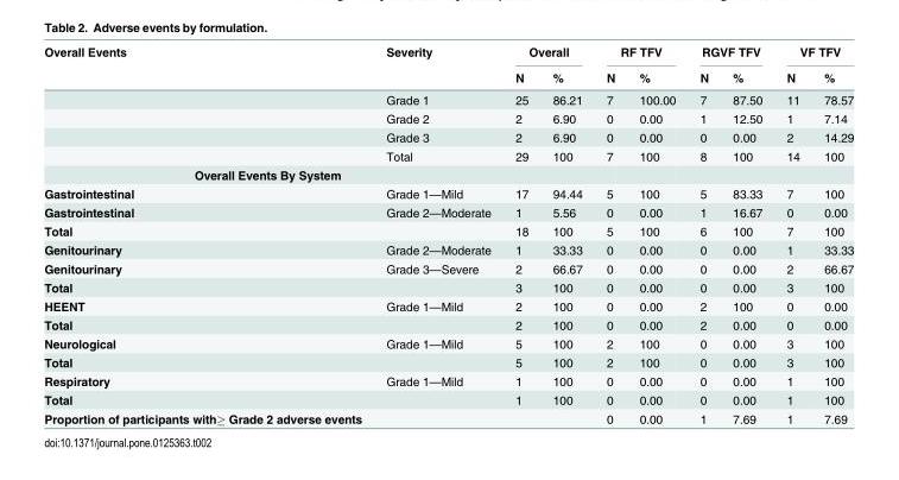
<table><thead><tr><td rowspan="2">Overall Events</td><td rowspan="2">Severity</td><td colspan="2">Overall</td><td colspan="2">RF TFV</td><td colspan="2">RGVF TFV</td><td colspan="2">VF TFV</td></tr><tr><td>N</td><td>%</td><td>N</td><td>%</td><td>N</td><td>%</td><td>N</td><td>%</td></tr></thead><tbody><tr><td></td><td>Grade 1</td><td>25</td><td>86.21</td><td>7</td><td>100.00</td><td>7</td><td>87.50</td><td>11</td><td>78.57</td></tr><tr><td></td><td>Grade 2</td><td>2</td><td>6.90</td><td>0</td><td>0.00</td><td>1</td><td>12.50</td><td>1</td><td>7.14</td></tr><tr><td></td><td>Grade 3</td><td>2</td><td>6.90</td><td>0</td><td>0.00</td><td>0</td><td>0.00</td><td>2</td><td>14.29</td></tr><tr><td></td><td>Total</td><td>29</td><td>100</td><td>7</td><td>100</td><td>8</td><td>100</td><td>14</td><td>100</td></tr><tr><td colspan="10">Overall Events By System</td></tr><tr><td>Gastrointestinal</td><td>Grade 1—Mild</td><td>17</td><td>94.44</td><td>5</td><td>100</td><td>5</td><td>83.33</td><td>7</td><td>100</td></tr><tr><td>Gastrointestinal</td><td>Grade 2—Moderate</td><td>1</td><td>5.56</td><td>0</td><td>0.00</td><td>1</td><td>16.67</td><td>0</td><td>0.00</td></tr><tr><td>Total</td><td></td><td>18</td><td>100</td><td>5</td><td>100</td><td>6</td><td>100</td><td>7</td><td>100</td></tr><tr><td>Genitourinary</td><td>Grade 2—Moderate</td><td>1</td><td>33.33</td><td>0</td><td>0.00</td><td>0</td><td>0.00</td><td>1</td><td>33.33</td></tr><tr><td>Genitourinary</td><td>Grade 3—Severe</td><td>2</td><td>66.67</td><td>0</td><td>0.00</td><td>0</td><td>0.00</td><td>2</td><td>66.67</td></tr><tr><td>Total</td><td></td><td>3</td><td>100</td><td>0</td><td>0.00</td><td>0</td><td>0.00</td><td>3</td><td>100</td></tr><tr><td>HEENT</td><td>Grade 1—Mild</td><td>2</td><td>100</td><td>0</td><td>0.00</td><td>2</td><td>100</td><td>0</td><td>0.00</td></tr><tr><td>Total</td><td></td><td>2</td><td>100</td><td>0</td><td>0.00</td><td>2</td><td>0.00</td><td>0</td><td>0.00</td></tr><tr><td>Neurological</td><td>Grade 1—Mild</td><td>5</td><td>100</td><td>2</td><td>100</td><td>0</td><td>0.00</td><td>3</td><td>100</td></tr><tr><td>Total</td><td></td><td>5</td><td>100</td><td>2</td><td>100</td><td>0</td><td>0.00</td><td>3</td><td>100</td></tr><tr><td>Respiratory</td><td>Grade 1—Mild</td><td>1</td><td>100</td><td>0</td><td>0.00</td><td>0</td><td>0.00</td><td>1</td><td>100</td></tr><tr><td>Total</td><td></td><td>1</td><td>100</td><td>0</td><td>0.00</td><td>0</td><td>0.00</td><td>1</td><td>100</td></tr><tr><td>Proportion of participants with≥ Grade 2 adverse events</td><td></td><td></td><td></td><td>0</td><td>0.00</td><td>1</td><td>7.69</td><td>1</td><td>7.69</td></tr></tbody></table>